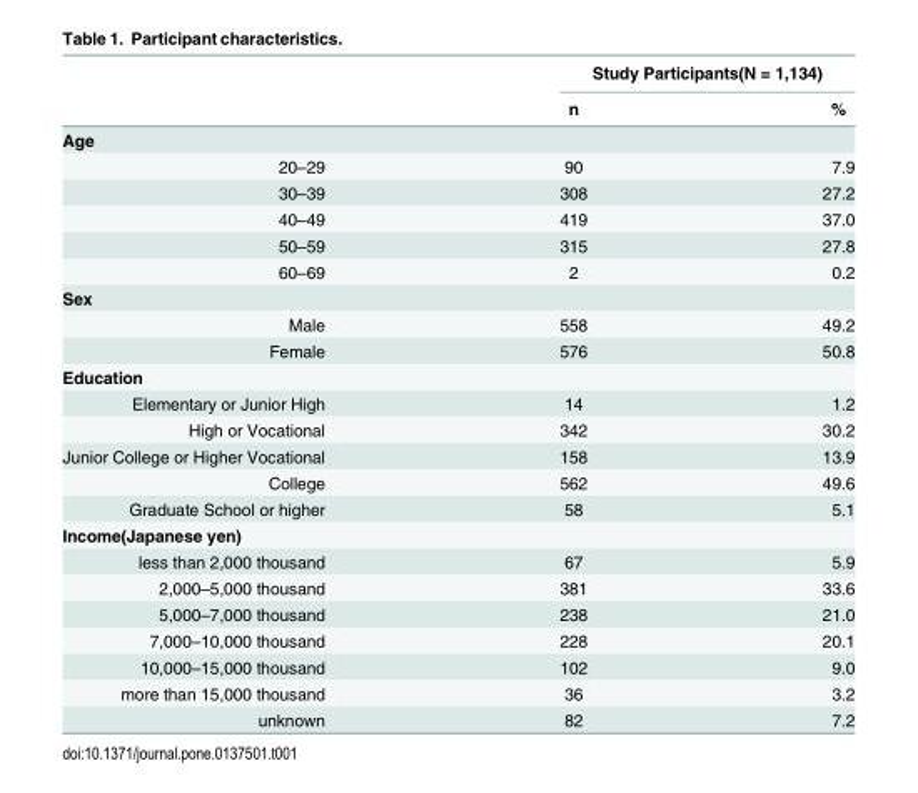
<table><thead><tr><td rowspan="2"></td><td colspan="2">Study Participants(N = 1,134)</td></tr><tr><td>n</td><td>%</td></tr></thead><tbody><tr><td colspan="3">Age</td></tr><tr><td>20–29</td><td>90</td><td>7.9</td></tr><tr><td>30–39</td><td>308</td><td>27.2</td></tr><tr><td>40–49</td><td>419</td><td>37.0</td></tr><tr><td>50–59</td><td>315</td><td>27.8</td></tr><tr><td>60–69</td><td>2</td><td>0.2</td></tr><tr><td colspan="3">Sex</td></tr><tr><td>Male</td><td>558</td><td>49.2</td></tr><tr><td>Female</td><td>576</td><td>50.8</td></tr><tr><td colspan="3">Education</td></tr><tr><td>Elementary or Junior High</td><td>14</td><td>1.2</td></tr><tr><td>High or Vocational</td><td>342</td><td>30.2</td></tr><tr><td>Junior College or Higher Vocational</td><td>158</td><td>13.9</td></tr><tr><td>College</td><td>562</td><td>49.6</td></tr><tr><td>Graduate School or higher</td><td>58</td><td>5.1</td></tr><tr><td colspan="3">Income(Japanese yen)</td></tr><tr><td>less than 2,000 thousand</td><td>67</td><td>5.9</td></tr><tr><td>2,000–5,000 thousand</td><td>381</td><td>33.6</td></tr><tr><td>5,000–7,000 thousand</td><td>238</td><td>21.0</td></tr><tr><td>7,000–10,000 thousand</td><td>228</td><td>20.1</td></tr><tr><td>10,000–15,000 thousand</td><td>102</td><td>9.0</td></tr><tr><td>more than 15,000 thousand</td><td>36</td><td>3.2</td></tr><tr><td>unknown</td><td>82</td><td>7.2</td></tr></tbody></table>